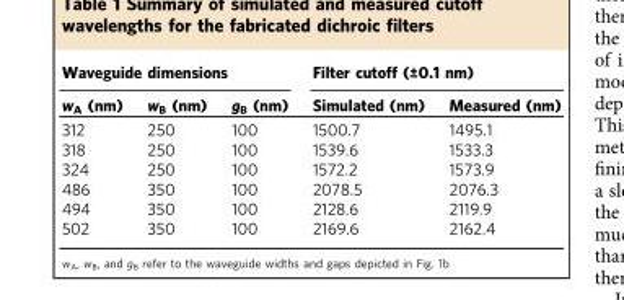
<table><thead><tr><td colspan="3">Waveguide dimensions</td><td colspan="2">Filter cutoff (±0.1 nm)</td></tr><tr><td>w<sub>A</sub> (nm)</td><td>w<sub>B</sub> (nm)</td><td>g<sub>B</sub> (nm)</td><td>Simulated (nm)</td><td>Measured (nm)</td></tr></thead><tbody><tr><td>312</td><td>250</td><td>100</td><td>1500.7</td><td>1495.1</td></tr><tr><td>318</td><td>250</td><td>100</td><td>1539.6</td><td>1533.3</td></tr><tr><td>324</td><td>250</td><td>100</td><td>1572.2</td><td>1573.9</td></tr><tr><td>486</td><td>350</td><td>100</td><td>2078.5</td><td>2076.3</td></tr><tr><td>494</td><td>350</td><td>100</td><td>2128.6</td><td>2119.9</td></tr><tr><td>502</td><td>350</td><td>100</td><td>2169.6</td><td>2162.4</td></tr></tbody></table>